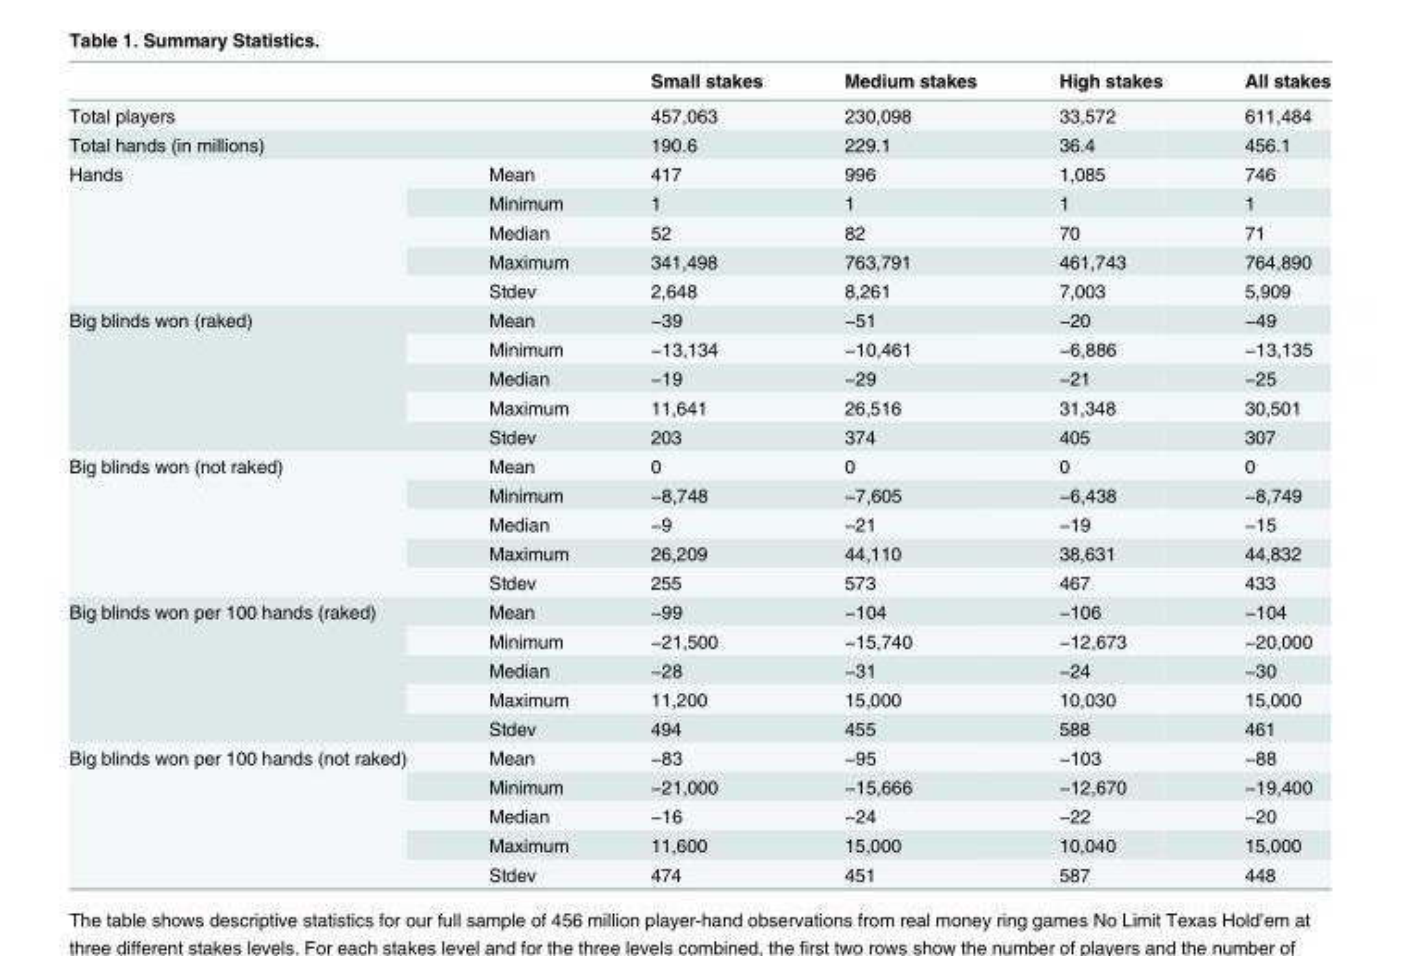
<table><thead><tr><td></td><td></td><td>Small stakes</td><td>Medium stakes</td><td>High stakes</td><td>All stakes</td></tr></thead><tbody><tr><td>Total players</td><td></td><td>457,063</td><td>230,098</td><td>33,572</td><td>611,484</td></tr><tr><td>Total hands (in millions)</td><td></td><td>190.6</td><td>229.1</td><td>36.4</td><td>456.1</td></tr><tr><td rowspan="5">Hands</td><td>Mean</td><td>417</td><td>996</td><td>1,085</td><td>746</td></tr><tr><td>Minimum</td><td>1</td><td>1</td><td>1</td><td>1</td></tr><tr><td>Median</td><td>52</td><td>82</td><td>70</td><td>71</td></tr><tr><td>Maximum</td><td>341,498</td><td>763,791</td><td>461,743</td><td>764,890</td></tr><tr><td>Stdev</td><td>2,648</td><td>8,261</td><td>7,003</td><td>5,909</td></tr><tr><td rowspan="5">Big blinds won (raked)</td><td>Mean</td><td>−39</td><td>−51</td><td>−20</td><td>−49</td></tr><tr><td>Minimum</td><td>−13,134</td><td>−10,461</td><td>−6,886</td><td>−13,135</td></tr><tr><td>Median</td><td>−19</td><td>−29</td><td>−21</td><td>−25</td></tr><tr><td>Maximum</td><td>11,641</td><td>26,516</td><td>31,348</td><td>30,501</td></tr><tr><td>Stdev</td><td>203</td><td>374</td><td>405</td><td>307</td></tr><tr><td rowspan="5">Big blinds won (not raked)</td><td>Mean</td><td>0</td><td>0</td><td>0</td><td>0</td></tr><tr><td>Minimum</td><td>−8,748</td><td>−7,605</td><td>−6,438</td><td>−8,749</td></tr><tr><td>Median</td><td>−9</td><td>−21</td><td>−19</td><td>−15</td></tr><tr><td>Maximum</td><td>26,209</td><td>44,110</td><td>38,631</td><td>44,832</td></tr><tr><td>Stdev</td><td>255</td><td>573</td><td>467</td><td>433</td></tr><tr><td rowspan="5">Big blinds won per 100 hands (raked)</td><td>Mean</td><td>−99</td><td>−104</td><td>−106</td><td>−104</td></tr><tr><td>Minimum</td><td>−21,500</td><td>−15,740</td><td>−12,673</td><td>−20,000</td></tr><tr><td>Median</td><td>−28</td><td>−31</td><td>−24</td><td>−30</td></tr><tr><td>Maximum</td><td>11,200</td><td>15,000</td><td>10,030</td><td>15,000</td></tr><tr><td>Stdev</td><td>494</td><td>455</td><td>588</td><td>461</td></tr><tr><td rowspan="5">Big blinds won per 100 hands (not raked)</td><td>Mean</td><td>−83</td><td>−95</td><td>−103</td><td>−88</td></tr><tr><td>Minimum</td><td>−21,000</td><td>−15,666</td><td>−12,670</td><td>−19,400</td></tr><tr><td>Median</td><td>−16</td><td>−24</td><td>−22</td><td>−20</td></tr><tr><td>Maximum</td><td>11,600</td><td>15,000</td><td>10,040</td><td>15,000</td></tr><tr><td>Stdev</td><td>474</td><td>451</td><td>587</td><td>448</td></tr></tbody></table>